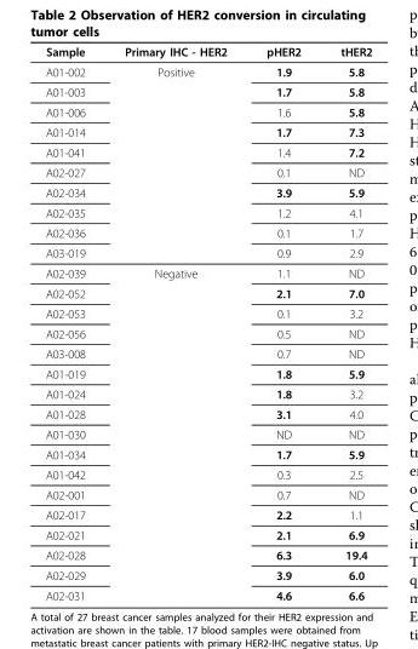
<table><thead><tr><td>Sample</td><td>Primary IHC - HER2</td><td>pHER2</td><td>tHER2</td></tr></thead><tbody><tr><td>A01-002</td><td>Positive</td><td>1.9</td><td>5.8</td></tr><tr><td>A01-003</td><td></td><td>1.7</td><td>5.8</td></tr><tr><td>A01-006</td><td></td><td>1.6</td><td>5.8</td></tr><tr><td>A01-014</td><td></td><td>1.7</td><td>7.3</td></tr><tr><td>A01-041</td><td></td><td>1.4</td><td>7.2</td></tr><tr><td>A02-027</td><td></td><td>0.1</td><td>ND</td></tr><tr><td>A02-034</td><td></td><td>3.9</td><td>5.9</td></tr><tr><td>A02-035</td><td></td><td>1.2</td><td>4.1</td></tr><tr><td>A02-036</td><td></td><td>0.1</td><td>1.7</td></tr><tr><td>A03-019</td><td></td><td>0.9</td><td>2.9</td></tr><tr><td>A02-039</td><td>Negative</td><td>1.1</td><td>ND</td></tr><tr><td>A02-052</td><td></td><td>2.1</td><td>7.0</td></tr><tr><td>A02-053</td><td></td><td>0.1</td><td>3.2</td></tr><tr><td>A02-056</td><td></td><td>0.5</td><td>ND</td></tr><tr><td>A03-008</td><td></td><td>0.7</td><td>ND</td></tr><tr><td>A01-019</td><td></td><td>1.8</td><td>5.9</td></tr><tr><td>A01-024</td><td></td><td>1.8</td><td>3.2</td></tr><tr><td>A01-028</td><td></td><td>3.1</td><td>4.0</td></tr><tr><td>A01-030</td><td></td><td>ND</td><td>ND</td></tr><tr><td>A01-034</td><td></td><td>1.7</td><td>5.9</td></tr><tr><td>A01-042</td><td></td><td>0.3</td><td>2.5</td></tr><tr><td>A02-001</td><td></td><td>0.7</td><td>ND</td></tr><tr><td>A02-017</td><td></td><td>2.2</td><td>1.1</td></tr><tr><td>A02-021</td><td></td><td>2.1</td><td>6.9</td></tr><tr><td>A02-028</td><td></td><td>6.3</td><td>19.4</td></tr><tr><td>A02-029</td><td></td><td>3.9</td><td>6.0</td></tr><tr><td>A02-031</td><td></td><td>4.6</td><td>6.6</td></tr></tbody></table>